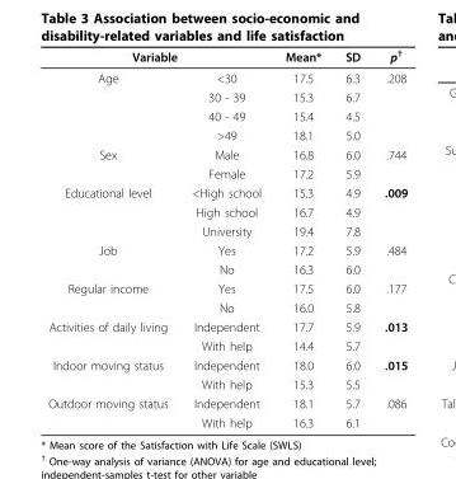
<table><thead><tr><td colspan="2">Variable</td><td rowspan="2">Mean* 17.5</td><td rowspan="2">SD 6.3</td><td rowspan="2">p<sup>†</sup> .208</td></tr><tr><td>Age</td><td>&lt;30</td></tr></thead><tbody><tr><td></td><td>30 - 39</td><td>15.3</td><td>6.7</td><td></td></tr><tr><td></td><td>40 - 49</td><td>15.4</td><td>4.5</td><td></td></tr><tr><td></td><td>&gt;49</td><td>18.1</td><td>5.0</td><td></td></tr><tr><td rowspan="2">Sex</td><td>Male</td><td>16.8</td><td>6.0</td><td>.744</td></tr><tr><td>Female</td><td>17.2</td><td>5.9</td><td></td></tr><tr><td rowspan="3">Educational level</td><td>&lt;High school</td><td>15.3</td><td>4.9</td><td>.009</td></tr><tr><td>High school</td><td>16.7</td><td>4.9</td><td></td></tr><tr><td>University</td><td>19.4</td><td>7.8</td><td></td></tr><tr><td rowspan="2">Job</td><td>Yes</td><td>17.2</td><td>5.9</td><td>.484</td></tr><tr><td>No</td><td>16.3</td><td>6.0</td><td></td></tr><tr><td rowspan="2">Regular income</td><td>Yes</td><td>17.5</td><td>6.0</td><td>.177</td></tr><tr><td>No</td><td>16.0</td><td>5.8</td><td></td></tr><tr><td rowspan="2">Activities of daily living</td><td>Independent</td><td>17.7</td><td>5.9</td><td>.013</td></tr><tr><td>With help</td><td>14.4</td><td>5.7</td><td></td></tr><tr><td rowspan="2">Indoor moving status</td><td>Independent</td><td>18.0</td><td>6.0</td><td>.015</td></tr><tr><td>With help</td><td>15.3</td><td>5.5</td><td></td></tr><tr><td rowspan="2">Outdoor moving status</td><td>Independent</td><td>18.1</td><td>5.7</td><td>.086</td></tr><tr><td>With help</td><td>16.3</td><td>6.1</td><td></td></tr></tbody></table>